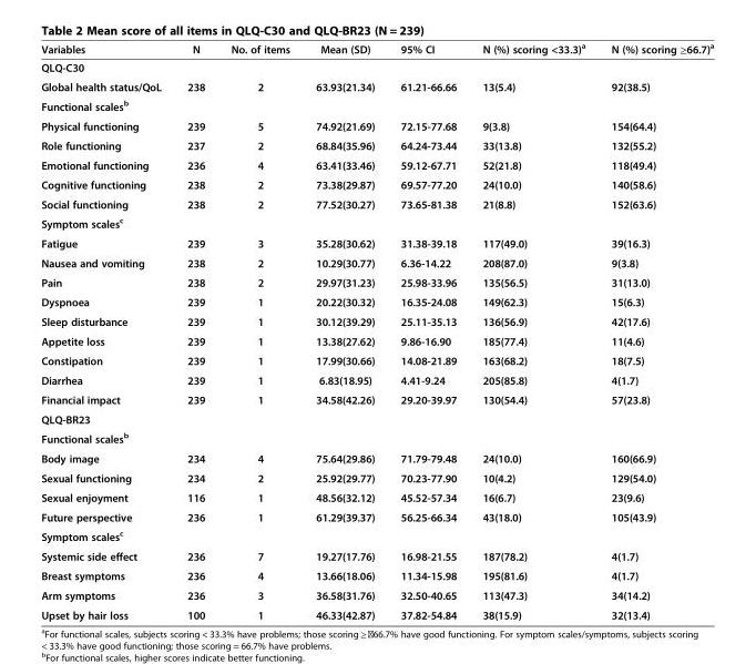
<table><thead><tr><td>Variables</td><td>N</td><td>No. of items</td><td>Mean (SD)</td><td>95% CI</td><td>N (%) scoring &lt;33.3)<sup>a</sup></td><td>N (%) scoring ≥66.7)<sup>a</sup></td></tr></thead><tbody><tr><td colspan="7">QLQ-C30</td></tr><tr><td>Global health status/QoL</td><td>238</td><td>2</td><td>63.93(21.34)</td><td>61.21-66.66</td><td>13(5.4)</td><td>92(38.5)</td></tr><tr><td colspan="7">Functional scales<sup>b</sup></td></tr><tr><td>Physical functioning</td><td>239</td><td>5</td><td>74.92(21.69)</td><td>72.15-77.68</td><td>9(3.8)</td><td>154(64.4)</td></tr><tr><td>Role functioning</td><td>237</td><td>2</td><td>68.84(35.96)</td><td>64.24-73.44</td><td>33(13.8)</td><td>132(55.2)</td></tr><tr><td>Emotional functioning</td><td>236</td><td>4</td><td>63.41(33.46)</td><td>59.12-67.71</td><td>52(21.8)</td><td>118(49.4)</td></tr><tr><td>Cognitive functioning</td><td>238</td><td>2</td><td>73.38(29.87)</td><td>69.57-77.20</td><td>24(10.0)</td><td>140(58.6)</td></tr><tr><td>Social functioning</td><td>238</td><td>2</td><td>77.52(30.27)</td><td>73.65-81.38</td><td>21(8.8)</td><td>152(63.6)</td></tr><tr><td colspan="7">Symptom scales<sup>c</sup></td></tr><tr><td>Fatigue</td><td>239</td><td>3</td><td>35.28(30.62)</td><td>31.38-39.18</td><td>117(49.0)</td><td>39(16.3)</td></tr><tr><td>Nausea and vomiting</td><td>238</td><td>2</td><td>10.29(30.77)</td><td>6.36-14.22</td><td>208(87.0)</td><td>9(3.8)</td></tr><tr><td>Pain</td><td>238</td><td>2</td><td>29.97(31.23)</td><td>25.98-33.96</td><td>135(56.5)</td><td>31(13.0)</td></tr><tr><td>Dyspnoea</td><td>239</td><td>1</td><td>20.22(30.32)</td><td>16.35-24.08</td><td>149(62.3)</td><td>15(6.3)</td></tr><tr><td>Sleep disturbance</td><td>239</td><td>1</td><td>30.12(39.29)</td><td>25.11-35.13</td><td>136(56.9)</td><td>42(17.6)</td></tr><tr><td>Appetite loss</td><td>239</td><td>1</td><td>13.38(27.62)</td><td>9.86-16.90</td><td>185(77.4)</td><td>11(4.6)</td></tr><tr><td>Constipation</td><td>239</td><td>1</td><td>17.99(30.66)</td><td>14.08-21.89</td><td>163(68.2)</td><td>18(7.5)</td></tr><tr><td>Diarrhea</td><td>239</td><td>1</td><td>6.83(18.95)</td><td>4.41-9.24</td><td>205(85.8)</td><td>4(1.7)</td></tr><tr><td>Financial impact</td><td>239</td><td>1</td><td>34.58(42.26)</td><td>29.20-39.97</td><td>130(54.4)</td><td>57(23.8)</td></tr><tr><td colspan="7">QLQ-BR23</td></tr><tr><td colspan="7">Functional scales<sup>b</sup></td></tr><tr><td>Body image</td><td>234</td><td>4</td><td>75.64(29.86)</td><td>71.79-79.48</td><td>24(10.0)</td><td>160(66.9)</td></tr><tr><td>Sexual functioning</td><td>234</td><td>2</td><td>25.92(29.77)</td><td>70.23-77.90</td><td>10(4.2)</td><td>129(54.0)</td></tr><tr><td>Sexual enjoyment</td><td>116</td><td>1</td><td>48.56(32.12)</td><td>45.52-57.34</td><td>16(6.7)</td><td>23(9.6)</td></tr><tr><td>Future perspective</td><td>236</td><td>1</td><td>61.29(39.37)</td><td>56.25-66.34</td><td>43(18.0)</td><td>105(43.9)</td></tr><tr><td colspan="7">Symptom scales<sup>c</sup></td></tr><tr><td>Systemic side effect</td><td>236</td><td>7</td><td>19.27(17.76)</td><td>16.98-21.55</td><td>187(78.2)</td><td>4(1.7)</td></tr><tr><td>Breast symptoms</td><td>236</td><td>4</td><td>13.66(18.06)</td><td>11.34-15.98</td><td>195(81.6)</td><td>4(1.7)</td></tr><tr><td>Arm symptoms</td><td>236</td><td>3</td><td>36.58(31.76)</td><td>32.50-40.65</td><td>113(47.3)</td><td>34(14.2)</td></tr><tr><td>Upset by hair loss</td><td>100</td><td>1</td><td>46.33(42.87)</td><td>37.82-54.84</td><td>38(15.9)</td><td>32(13.4)</td></tr></tbody></table>